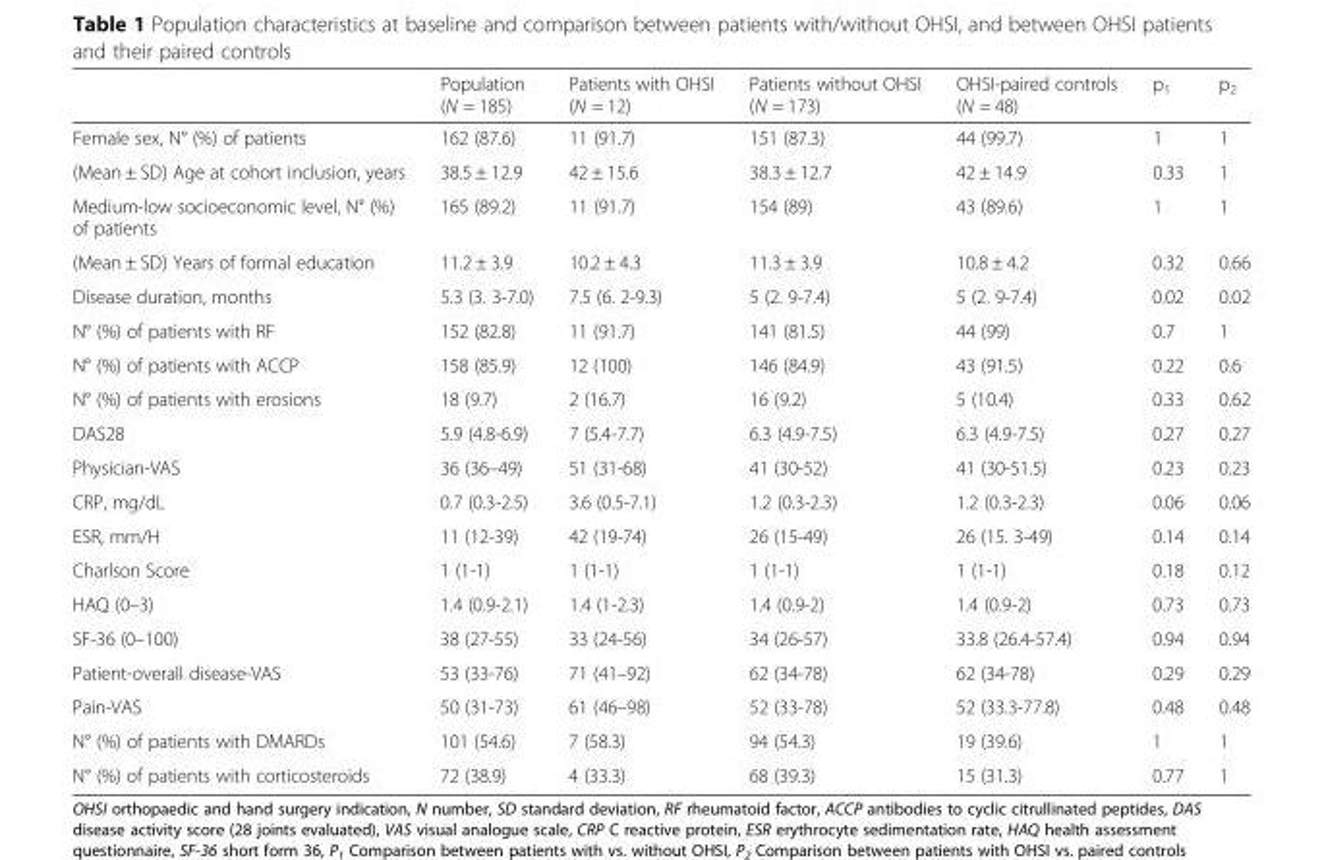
<table><thead><tr><td></td><td>Population (N = 185)</td><td>Patients with OHSI (N = 12)</td><td>Patients without OHSI (N = 173)</td><td>OHSI-paired controls (N = 48)</td><td>p<sub>1</sub></td><td>p<sub>2</sub></td></tr></thead><tbody><tr><td>Female sex, N° (%) of patients</td><td>162 (87.6)</td><td>11 (91.7)</td><td>151 (87.3)</td><td>44 (99.7)</td><td>1</td><td>1</td></tr><tr><td>(Mean ± SD) Age at cohort inclusion, years</td><td>38.5 ± 12.9</td><td>42 ± 15.6</td><td>38.3 ± 12.7</td><td>42 ± 14.9</td><td>0.33</td><td>1</td></tr><tr><td>Medium-low socioeconomic level, N° (%) of patients</td><td>165 (89.2)</td><td>11 (91.7)</td><td>154 (89)</td><td>43 (89.6)</td><td>1</td><td>1</td></tr><tr><td>(Mean ± SD) Years of formal education</td><td>11.2 ± 3.9</td><td>10.2 ± 4.3</td><td>11.3 ± 3.9</td><td>10.8 ± 4.2</td><td>0.32</td><td>0.66</td></tr><tr><td>Disease duration, months</td><td>5.3 (3. 3-7.0)</td><td>7.5 (6. 2-9.3)</td><td>5 (2. 9-7.4)</td><td>5 (2. 9-7.4)</td><td>0.02</td><td>0.02</td></tr><tr><td>N° (%) of patients with RF</td><td>152 (82.8)</td><td>11 (91.7)</td><td>141 (81.5)</td><td>44 (99)</td><td>0.7</td><td>1</td></tr><tr><td>N° (%) of patients with ACCP</td><td>158 (85.9)</td><td>12 (100)</td><td>146 (84.9)</td><td>43 (91.5)</td><td>0.22</td><td>0.6</td></tr><tr><td>N° (%) of patients with erosions</td><td>18 (9.7)</td><td>2 (16.7)</td><td>16 (9.2)</td><td>5 (10.4)</td><td>0.33</td><td>0.62</td></tr><tr><td>DAS28</td><td>5.9 (4.8-6.9)</td><td>7 (5.4-7.7)</td><td>6.3 (4.9-7.5)</td><td>6.3 (4.9-7.5)</td><td>0.27</td><td>0.27</td></tr><tr><td>Physician-VAS</td><td>36 (36–49)</td><td>51 (31-68)</td><td>41 (30-52)</td><td>41 (30-51.5)</td><td>0.23</td><td>0.23</td></tr><tr><td>CRP, mg/dL</td><td>0.7 (0.3-2.5)</td><td>3.6 (0.5-7.1)</td><td>1.2 (0.3-2.3)</td><td>1.2 (0.3-2.3)</td><td>0.06</td><td>0.06</td></tr><tr><td>ESR, mm/H</td><td>11 (12-39)</td><td>42 (19-74)</td><td>26 (15-49)</td><td>26 (15. 3-49)</td><td>0.14</td><td>0.14</td></tr><tr><td>Charlson Score</td><td>1 (1-1)</td><td>1 (1-1)</td><td>1 (1-1)</td><td>1 (1-1)</td><td>0.18</td><td>0.12</td></tr><tr><td>HAQ (0–3)</td><td>1.4 (0.9-2.1)</td><td>1.4 (1-2.3)</td><td>1.4 (0.9-2)</td><td>1.4 (0.9-2)</td><td>0.73</td><td>0.73</td></tr><tr><td>SF-36 (0–100)</td><td>38 (27-55)</td><td>33 (24-56)</td><td>34 (26-57)</td><td>33.8 (26.4-57.4)</td><td>0.94</td><td>0.94</td></tr><tr><td>Patient-overall disease-VAS</td><td>53 (33-76)</td><td>71 (41–92)</td><td>62 (34-78)</td><td>62 (34-78)</td><td>0.29</td><td>0.29</td></tr><tr><td>Pain-VAS</td><td>50 (31-73)</td><td>61 (46–98)</td><td>52 (33-78)</td><td>52 (33.3-77.8)</td><td>0.48</td><td>0.48</td></tr><tr><td>N° (%) of patients with DMARDs</td><td>101 (54.6)</td><td>7 (58.3)</td><td>94 (54.3)</td><td>19 (39.6)</td><td>1</td><td>1</td></tr><tr><td>N° (%) of patients with corticosteroids</td><td>72 (38.9)</td><td>4 (33.3)</td><td>68 (39.3)</td><td>15 (31.3)</td><td>0.77</td><td>1</td></tr></tbody></table>